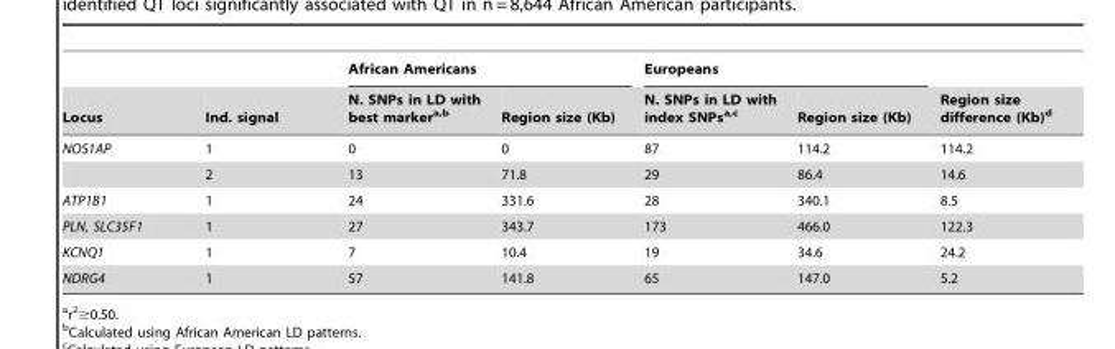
<table><thead><tr><td rowspan="2">Locus</td><td rowspan="2">Ind. signal</td><td colspan="2">African Americans</td><td colspan="2">Europeans</td><td rowspan="2">Region size difference (Kb)<sup>d</sup></td></tr><tr><td>N. SNPs in LD with best marker<sup>a,</sup>b</td><td>Region size (Kb)</td><td>N. SNPs in LD with index SNPs<sup>a,</sup>c</td><td>Region size (Kb)</td></tr></thead><tbody><tr><td rowspan="2">NOS1AP</td><td>1</td><td>0</td><td>0</td><td>87</td><td>114.2</td><td>114.2</td></tr><tr><td>2</td><td>13</td><td>71.8</td><td>29</td><td>86.4</td><td>14.6</td></tr><tr><td>ATP1B1</td><td>1</td><td>24</td><td>331.6</td><td>28</td><td>340.1</td><td>8.5</td></tr><tr><td>PLN, SLC35F1</td><td>1</td><td>27</td><td>343.7</td><td>173</td><td>466.0</td><td>122.3</td></tr><tr><td>KCNQ1</td><td>1</td><td>7</td><td>10.4</td><td>19</td><td>34.6</td><td>24.2</td></tr><tr><td>NDRG4</td><td>1</td><td>57</td><td>141.8</td><td>65</td><td>147.0</td><td>5.2</td></tr></tbody></table>